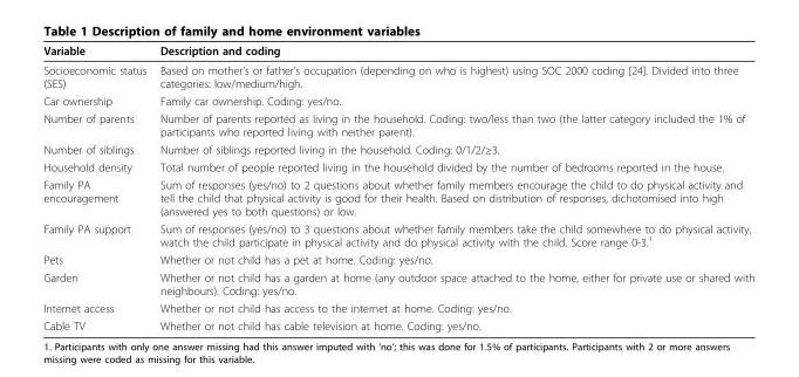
<table><thead><tr><td>Variable</td><td>Description and coding</td></tr></thead><tbody><tr><td>Socioeconomic status (SES)</td><td>Based on mother’s or father’s occupation (depending on who is highest) using SOC 2000 coding [24]. Divided into three categories: low/medium/high.</td></tr><tr><td>Car ownership</td><td>Family car ownership. Coding: yes/no.</td></tr><tr><td>Number of parents</td><td>Number of parents reported as living in the household. Coding: two/less than two (the latter category included the 1% of participants who reported living with neither parent).</td></tr><tr><td>Number of siblings</td><td>Number of siblings reported living in the household. Coding: 0/1/2/≥3.</td></tr><tr><td>Household density</td><td>Total number of people reported living in the household divided by the number of bedrooms reported in the house.</td></tr><tr><td>Family PA encouragement</td><td>Sum of responses (yes/no) to 2 questions about whether family members encourage the child to do physical activity and tell the child that physical activity is good for their health. Based on distribution of responses, dichotomised into high (answered yes to both questions) or low.</td></tr><tr><td>Family PA support</td><td>Sum of responses (yes/no) to 3 questions about whether family members take the child somewhere to do physical activity, watch the child participate in physical activity and do physical activity with the child. Score range 0-3.<sup>1</sup></td></tr><tr><td>Pets</td><td>Whether or not child has a pet at home. Coding: yes/no.</td></tr><tr><td>Garden</td><td>Whether or not child has a garden at home (any outdoor space attached to the home, either for private use or shared with neighbours). Coding: yes/no.</td></tr><tr><td>Internet access</td><td>Whether or not child has access to the internet at home. Coding: yes/no.</td></tr><tr><td>Cable TV</td><td>Whether or not child has cable television at home. Coding: yes/no.</td></tr></tbody></table>